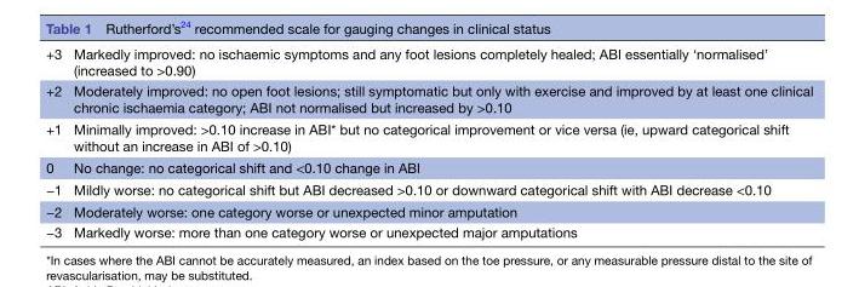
<table><tbody><tr><td>+3</td><td>Markedly improved: no ischaemic symptoms and any foot lesions completely healed; ABI essentially ‘normalised’ (increased to &gt;0.90)</td></tr><tr><td>+2</td><td>Moderately improved: no open foot lesions; still symptomatic but only with exercise and improved by at least one clinical chronic ischaemia category; ABI not normalised but increased by &gt;0.10</td></tr><tr><td>+1</td><td>Minimally improved: &gt;0.10 increase in ABI* but no categorical improvement or vice versa (ie, upward categorical shift without an increase in ABI of &gt;0.10)</td></tr><tr><td>0</td><td>No change: no categorical shift and &lt;0.10 change in ABI</td></tr><tr><td>−1</td><td>Mildly worse: no categorical shift but ABI decreased &gt;0.10 or downward categorical shift with ABI decrease &lt;0.10</td></tr><tr><td>−2</td><td>Moderately worse: one category worse or unexpected minor amputation</td></tr><tr><td>−3</td><td>Markedly worse: more than one category worse or unexpected major amputations</td></tr></tbody></table>